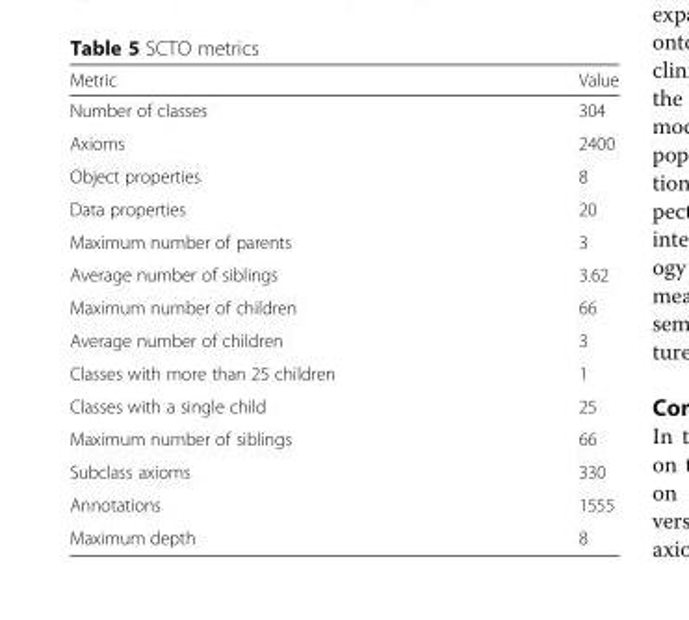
<table><thead><tr><td>Metric</td><td>Value</td></tr></thead><tbody><tr><td>Number of classes</td><td>304</td></tr><tr><td>Axioms</td><td>2400</td></tr><tr><td>Object properties</td><td>8</td></tr><tr><td>Data properties</td><td>20</td></tr><tr><td>Maximum number of parents</td><td>3</td></tr><tr><td>Average number of siblings</td><td>3.62</td></tr><tr><td>Maximum number of children</td><td>66</td></tr><tr><td>Average number of children</td><td>3</td></tr><tr><td>Classes with more than 25 children</td><td>1</td></tr><tr><td>Classes with a single child</td><td>25</td></tr><tr><td>Maximum number of siblings</td><td>66</td></tr><tr><td>Subclass axioms</td><td>330</td></tr><tr><td>Annotations</td><td>1555</td></tr><tr><td>Maximum depth</td><td>8</td></tr></tbody></table>